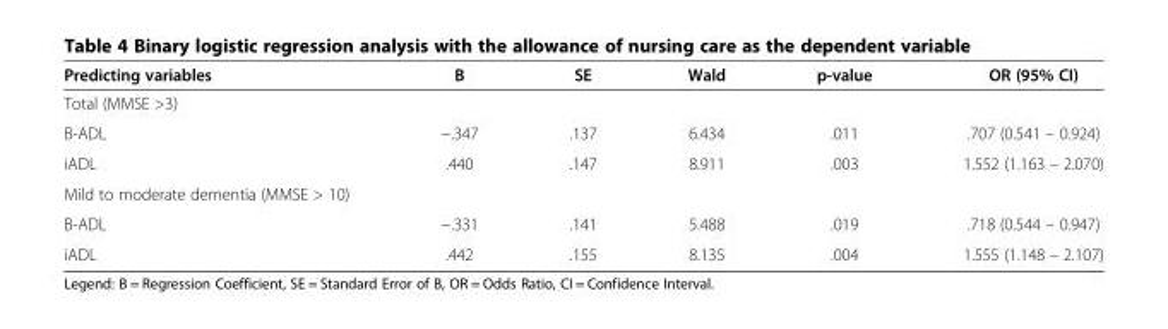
<table><thead><tr><td>Predicting variables</td><td>B</td><td>SE</td><td>Wald</td><td>p-value</td><td>OR (95% CI)</td></tr></thead><tbody><tr><td colspan="6">Total (MMSE &gt;3)</td></tr><tr><td>B-ADL</td><td>−.347</td><td>.137</td><td>6.434</td><td>.011</td><td>.707 (0.541 – 0.924)</td></tr><tr><td>iADL</td><td>.440</td><td>.147</td><td>8.911</td><td>.003</td><td>1.552 (1.163 – 2.070)</td></tr><tr><td colspan="6">Mild to moderate dementia (MMSE &gt; 10)</td></tr><tr><td>B-ADL</td><td>−.331</td><td>.141</td><td>5.488</td><td>.019</td><td>.718 (0.544 – 0.947)</td></tr><tr><td>iADL</td><td>.442</td><td>.155</td><td>8.135</td><td>.004</td><td>1.555 (1.148 – 2.107)</td></tr></tbody></table>